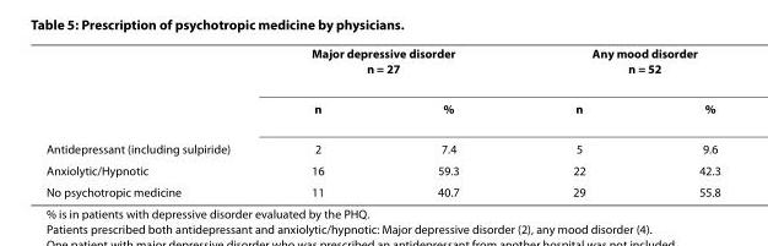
<table><thead><tr><td rowspan="2"></td><td colspan="2">Major depressive disorder n = 27</td><td colspan="2">Any mood disorder n = 52</td></tr><tr><td>n</td><td>%</td><td>n</td><td>%</td></tr></thead><tbody><tr><td>Antidepressant (including sulpiride)</td><td>2</td><td>7.4</td><td>5</td><td>9.6</td></tr><tr><td>Anxiolytic/Hypnotic</td><td>16</td><td>59.3</td><td>22</td><td>42.3</td></tr><tr><td>No psychotropic medicine</td><td>11</td><td>40.7</td><td>29</td><td>55.8</td></tr></tbody></table>